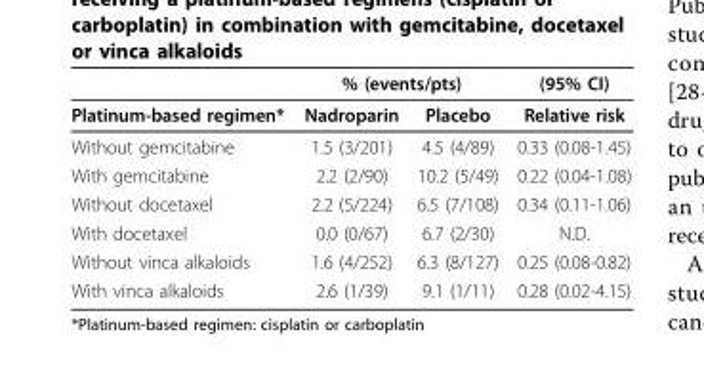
<table><thead><tr><td rowspan="2">Platinum-based regimen*</td><td colspan="2">% (events/pts)</td><td rowspan="2">(95% CI) Relative risk</td></tr><tr><td>Nadroparin</td><td>Placebo</td></tr></thead><tbody><tr><td>Without gemcitabine</td><td>1.5 (3/201)</td><td>4.5 (4/89)</td><td>0.33 (0.08-1.45)</td></tr><tr><td>With gemcitabine</td><td>2.2 (2/90)</td><td>10.2 (5/49)</td><td>0.22 (0.04-1.08)</td></tr><tr><td>Without docetaxel</td><td>2.2 (5/224)</td><td>6.5 (7/108)</td><td>0.34 (0.11-1.06)</td></tr><tr><td>With docetaxel</td><td>0.0 (0/67)</td><td>6.7 (2/30)</td><td>N.D.</td></tr><tr><td>Without vinca alkaloids</td><td>1.6 (4/252)</td><td>6.3 (8/127)</td><td>0.25 (0.08-0.82)</td></tr><tr><td>With vinca alkaloids</td><td>2.6 (1/39)</td><td>9.1 (1/11)</td><td>0.28 (0.02-4.15)</td></tr></tbody></table>